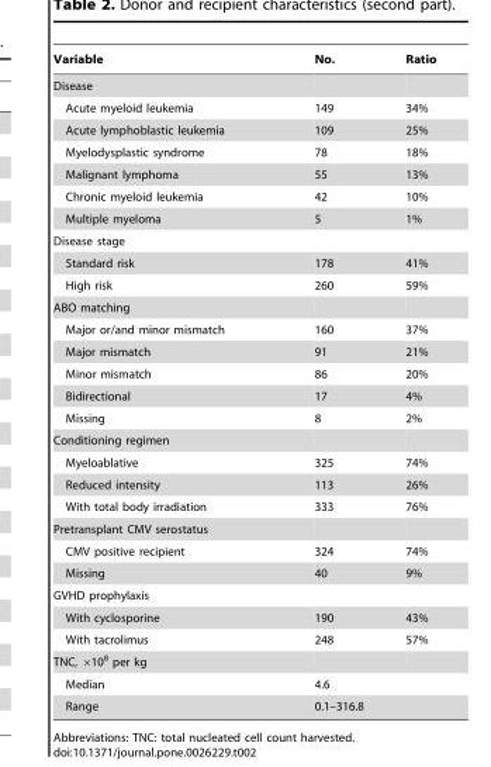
<table><thead><tr><td>Variable</td><td>No.</td><td>Ratio</td></tr></thead><tbody><tr><td colspan="3">Disease</td></tr><tr><td>Acute myeloid leukemia</td><td>149</td><td>34%</td></tr><tr><td>Acute lymphoblastic leukemia</td><td>109</td><td>25%</td></tr><tr><td>Myelodysplastic syndrome</td><td>78</td><td>18%</td></tr><tr><td>Malignant lymphoma</td><td>55</td><td>13%</td></tr><tr><td>Chronic myeloid leukemia</td><td>42</td><td>10%</td></tr><tr><td>Multiple myeloma</td><td>5</td><td>1%</td></tr><tr><td colspan="3">Disease stage</td></tr><tr><td>Standard risk</td><td>178</td><td>41%</td></tr><tr><td>High risk</td><td>260</td><td>59%</td></tr><tr><td colspan="3">ABO matching</td></tr><tr><td>Major or/and minor mismatch</td><td>160</td><td>37%</td></tr><tr><td>Major mismatch</td><td>91</td><td>21%</td></tr><tr><td>Minor mismatch</td><td>86</td><td>20%</td></tr><tr><td>Bidirectional</td><td>17</td><td>4%</td></tr><tr><td>Missing</td><td>8</td><td>2%</td></tr><tr><td colspan="3">Conditioning regimen</td></tr><tr><td>Myeloablative</td><td>325</td><td>74%</td></tr><tr><td>Reduced intensity</td><td>113</td><td>26%</td></tr><tr><td>With total body irradiation</td><td>333</td><td>76%</td></tr><tr><td colspan="3">Pretransplant CMV serostatus</td></tr><tr><td>CMV positive recipient</td><td>324</td><td>74%</td></tr><tr><td>Missing</td><td>40</td><td>9%</td></tr><tr><td colspan="3">GVHD prophylaxis</td></tr><tr><td>With cyclosporine</td><td>190</td><td>43%</td></tr><tr><td>With tacrolimus</td><td>248</td><td>57%</td></tr><tr><td colspan="3">TNC, ×10<sup>8</sup> per kg</td></tr><tr><td>Median</td><td colspan="2">4.6</td></tr><tr><td>Range</td><td colspan="2">0.1–316.8</td></tr></tbody></table>